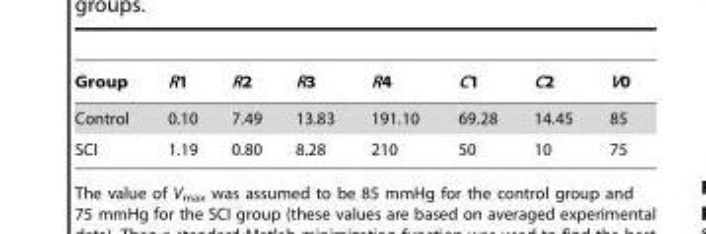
<table><thead><tr><td>Group</td><td>R1</td><td>R2</td><td>R3</td><td>R4</td><td>C1</td><td>C2</td><td>V0</td></tr></thead><tbody><tr><td>Control</td><td>0.10</td><td>7.49</td><td>13.83</td><td>191.10</td><td>69.28</td><td>14.45</td><td>85</td></tr><tr><td>SCI</td><td>1.19</td><td>0.80</td><td>8.28</td><td>210</td><td>50</td><td>10</td><td>75</td></tr></tbody></table>